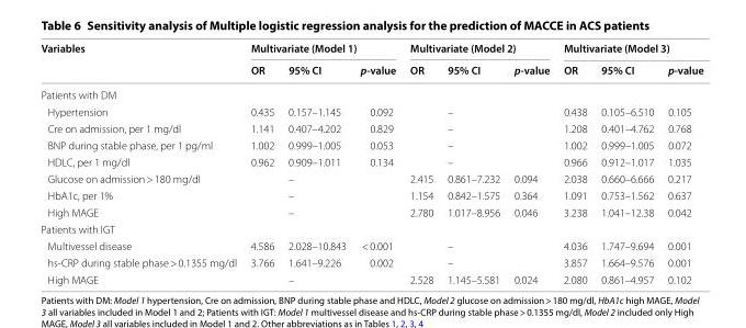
<table><thead><tr><td rowspan="2">Variables</td><td colspan="3">Multivariate (Model 1)</td><td colspan="3">Multivariate (Model 2)</td><td colspan="3">Multivariate (Model 3)</td></tr><tr><td>OR</td><td>95% CI</td><td>p‑value</td><td>OR</td><td>95% CI</td><td>p‑value</td><td>OR</td><td>95% CI</td><td>p‑value</td></tr></thead><tbody><tr><td colspan="10">Patients with DM</td></tr><tr><td>Hypertension</td><td>0.435</td><td>0.157–1.145</td><td>0.092</td><td></td><td>–</td><td></td><td>0.438</td><td>0.105–6.510</td><td>0.105</td></tr><tr><td>Cre on admission, per 1 mg/dl</td><td>1.141</td><td>0.407–4.202</td><td>0.829</td><td></td><td>–</td><td></td><td>1.208</td><td>0.401–4.762</td><td>0.768</td></tr><tr><td>BNP during stable phase, per 1 pg/ml</td><td>1.002</td><td>0.999–1.005</td><td>0.053</td><td></td><td>–</td><td></td><td>1.002</td><td>0.999–1.005</td><td>0.072</td></tr><tr><td>HDLC, per 1 mg/dl</td><td>0.962</td><td>0.909–1.011</td><td>0.134</td><td></td><td>–</td><td></td><td>0.966</td><td>0.912–1.017</td><td>1.035</td></tr><tr><td>Glucose on admission &gt; 180 mg/dl</td><td></td><td>–</td><td></td><td>2.415</td><td>0.861–7.232</td><td>0.094</td><td>2.038</td><td>0.660–6.666</td><td>0.217</td></tr><tr><td>HbA1c, per 1%</td><td></td><td>–</td><td></td><td>1.154</td><td>0.842–1.575</td><td>0.364</td><td>1.091</td><td>0.753–1.562</td><td>0.637</td></tr><tr><td>High MAGE</td><td></td><td>–</td><td></td><td>2.780</td><td>1.017–8.956</td><td>0.046</td><td>3.238</td><td>1.041–12.38</td><td>0.042</td></tr><tr><td colspan="10">Patients with IGT</td></tr><tr><td>Multivessel disease</td><td>4.586</td><td>2.028–10.843</td><td>&lt; 0.001</td><td></td><td>–</td><td></td><td>4.036</td><td>1.747–9.694</td><td>0.001</td></tr><tr><td>hs-CRP during stable phase &gt; 0.1355 mg/dl</td><td>3.766</td><td>1.641–9.226</td><td>0.002</td><td></td><td>–</td><td></td><td>3.857</td><td>1.664–9.576</td><td>0.001</td></tr><tr><td>High MAGE</td><td></td><td>–</td><td></td><td>2.528</td><td>1.145–5.581</td><td>0.024</td><td>2.080</td><td>0.861–4.957</td><td>0.102</td></tr></tbody></table>